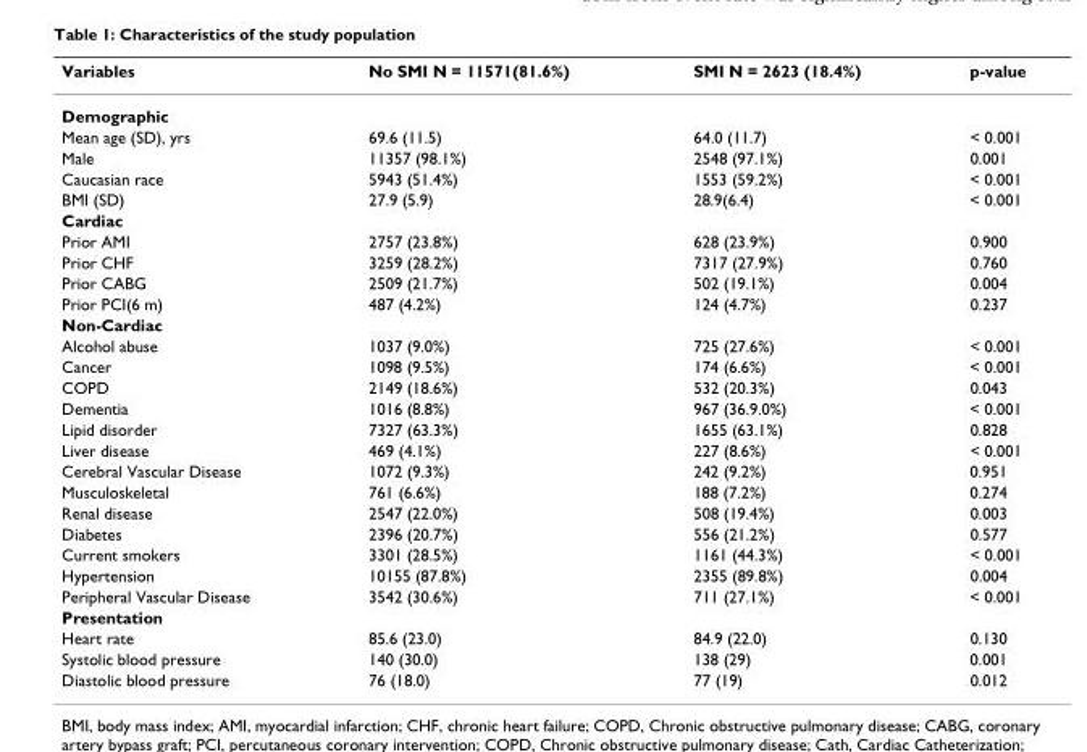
<table><thead><tr><td>Variables</td><td>No SMI N = 11571(81.6%)</td><td>SMI N = 2623 (18.4%)</td><td>p-value</td></tr></thead><tbody><tr><td colspan="4">Demographic</td></tr><tr><td>Mean age (SD), yrs</td><td>69.6 (11.5)</td><td>64.0 (11.7)</td><td>&lt; 0.001</td></tr><tr><td>Male</td><td>11357 (98.1%)</td><td>2548 (97.1%)</td><td>0.001</td></tr><tr><td>Caucasian race</td><td>5943 (51.4%)</td><td>1553 (59.2%)</td><td>&lt; 0.001</td></tr><tr><td>BMI (SD)</td><td>27.9 (5.9)</td><td>28.9(6.4)</td><td>&lt; 0.001</td></tr><tr><td colspan="4">Cardiac</td></tr><tr><td>Prior AMI</td><td>2757 (23.8%)</td><td>628 (23.9%)</td><td>0.900</td></tr><tr><td>Prior CHF</td><td>3259 (28.2%)</td><td>7317 (27.9%)</td><td>0.760</td></tr><tr><td>Prior CABG</td><td>2509 (21.7%)</td><td>502 (19.1%)</td><td>0.004</td></tr><tr><td>Prior PCI(6 m)</td><td>487 (4.2%)</td><td>124 (4.7%)</td><td>0.237</td></tr><tr><td colspan="4">Non-Cardiac</td></tr><tr><td>Alcohol abuse</td><td>1037 (9.0%)</td><td>725 (27.6%)</td><td>&lt; 0.001</td></tr><tr><td>Cancer</td><td>1098 (9.5%)</td><td>174 (6.6%)</td><td>&lt; 0.001</td></tr><tr><td>COPD</td><td>2149 (18.6%)</td><td>532 (20.3%)</td><td>0.043</td></tr><tr><td>Dementia</td><td>1016 (8.8%)</td><td>967 (36.9.0%)</td><td>&lt; 0.001</td></tr><tr><td>Lipid disorder</td><td>7327 (63.3%)</td><td>1655 (63.1%)</td><td>0.828</td></tr><tr><td>Liver disease</td><td>469 (4.1%)</td><td>227 (8.6%)</td><td>&lt; 0.001</td></tr><tr><td>Cerebral Vascular Disease</td><td>1072 (9.3%)</td><td>242 (9.2%)</td><td>0.951</td></tr><tr><td>Musculoskeletal</td><td>761 (6.6%)</td><td>188 (7.2%)</td><td>0.274</td></tr><tr><td>Renal disease</td><td>2547 (22.0%)</td><td>508 (19.4%)</td><td>0.003</td></tr><tr><td>Diabetes</td><td>2396 (20.7%)</td><td>556 (21.2%)</td><td>0.577</td></tr><tr><td>Current smokers</td><td>3301 (28.5%)</td><td>1161 (44.3%)</td><td>&lt; 0.001</td></tr><tr><td>Hypertension</td><td>10155 (87.8%)</td><td>2355 (89.8%)</td><td>0.004</td></tr><tr><td>Peripheral Vascular Disease</td><td>3542 (30.6%)</td><td>711 (27.1%)</td><td>&lt; 0.001</td></tr><tr><td colspan="4">Presentation</td></tr><tr><td>Heart rate</td><td>85.6 (23.0)</td><td>84.9 (22.0)</td><td>0.130</td></tr><tr><td>Systolic blood pressure</td><td>140 (30.0)</td><td>138 (29)</td><td>0.001</td></tr><tr><td>Diastolic blood pressure</td><td>76 (18.0)</td><td>77 (19)</td><td>0.012</td></tr></tbody></table>